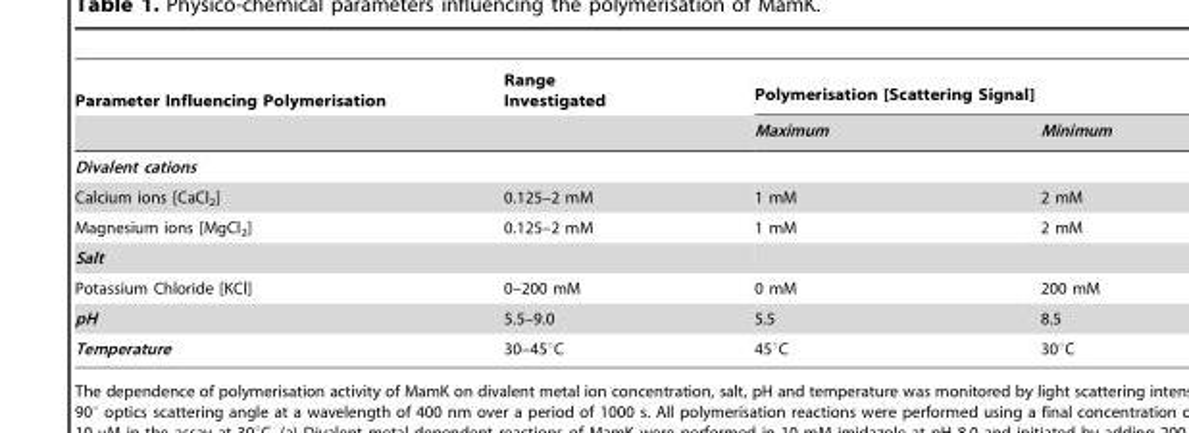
<table><thead><tr><td rowspan="2">Parameter Influencing Polymerisation</td><td rowspan="2">Range Investigated</td><td colspan="2">Polymerisation [Scattering Signal]</td></tr><tr><td>Maximum</td><td>Minimum</td></tr></thead><tbody><tr><td colspan="4">Divalent cations</td></tr><tr><td>Calcium ions [CaCl<sub>2</sub>]</td><td>0.125–2 mM</td><td>1 mM</td><td>2 mM</td></tr><tr><td>Magnesium ions [MgCl<sub>2</sub>]</td><td>0.125–2 mM</td><td>1 mM</td><td>2 mM</td></tr><tr><td colspan="4">Salt</td></tr><tr><td>Potassium Chloride [KCl]</td><td>0–200 mM</td><td>0 mM</td><td>200 mM</td></tr><tr><td>pH</td><td>5.5–9.0</td><td>5.5</td><td>8.5</td></tr><tr><td>Temperature</td><td>30–45°C</td><td>45°C</td><td>30°C</td></tr></tbody></table>